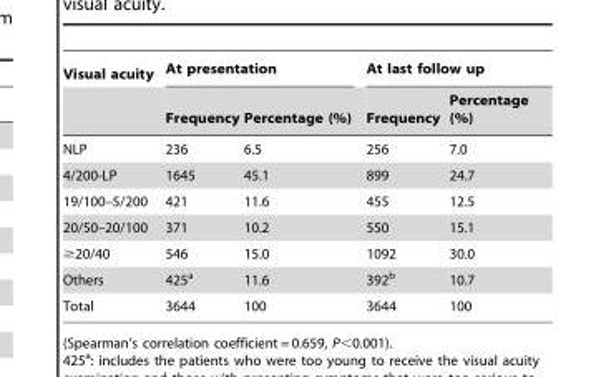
<table><thead><tr><td rowspan="2">Visual acuity</td><td colspan="2">At presentation</td><td colspan="2">At last follow up</td></tr><tr><td>Frequency</td><td>Percentage (%)</td><td>Frequency</td><td>Percentage (%)</td></tr></thead><tbody><tr><td>NLP</td><td>236</td><td>6.5</td><td>256</td><td>7.0</td></tr><tr><td>4/200-LP</td><td>1645</td><td>45.1</td><td>899</td><td>24.7</td></tr><tr><td>19/100–5/200</td><td>421</td><td>11.6</td><td>455</td><td>12.5</td></tr><tr><td>20/50–20/100</td><td>371</td><td>10.2</td><td>550</td><td>15.1</td></tr><tr><td>≥20/40</td><td>546</td><td>15.0</td><td>1092</td><td>30.0</td></tr><tr><td>Others</td><td>425<sup>a</sup></td><td>11.6</td><td>392<sup>b</sup></td><td>10.7</td></tr><tr><td>Total</td><td>3644</td><td>100</td><td>3644</td><td>100</td></tr></tbody></table>